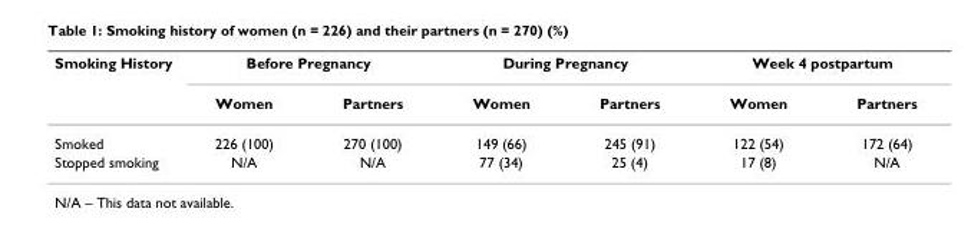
<table><thead><tr><td rowspan="2">Smoking History</td><td colspan="2">Before Pregnancy</td><td colspan="2">During Pregnancy</td><td colspan="2">Week 4 postpartum</td></tr><tr><td>Women</td><td>Partners</td><td>Women</td><td>Partners</td><td>Women</td><td>Partners</td></tr></thead><tbody><tr><td>Smoked</td><td>226 (100)</td><td>270 (100)</td><td>149 (66)</td><td>245 (91)</td><td>122 (54)</td><td>172 (64)</td></tr><tr><td>Stopped smoking</td><td>N/A</td><td>N/A</td><td>77 (34)</td><td>25 (4)</td><td>17 (8)</td><td>N/A</td></tr></tbody></table>